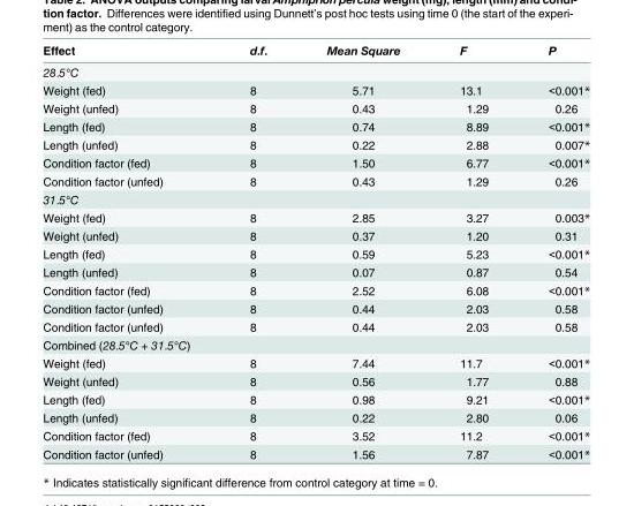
<table><thead><tr><td>Effect</td><td>d.f.</td><td>Mean Square</td><td>F</td><td>P</td></tr></thead><tbody><tr><td colspan="5">28.5°C</td></tr><tr><td>Weight (fed)</td><td>8</td><td>5.71</td><td>13.1</td><td>&lt;0.001*</td></tr><tr><td>Weight (unfed)</td><td>8</td><td>0.43</td><td>1.29</td><td>0.26</td></tr><tr><td>Length (fed)</td><td>8</td><td>0.74</td><td>8.89</td><td>&lt;0.001*</td></tr><tr><td>Length (unfed)</td><td>8</td><td>0.22</td><td>2.88</td><td>0.007*</td></tr><tr><td>Condition factor (fed)</td><td>8</td><td>1.50</td><td>6.77</td><td>&lt;0.001*</td></tr><tr><td>Condition factor (unfed)</td><td>8</td><td>0.43</td><td>1.29</td><td>0.26</td></tr><tr><td colspan="5">31.5°C</td></tr><tr><td>Weight (fed)</td><td>8</td><td>2.85</td><td>3.27</td><td>0.003*</td></tr><tr><td>Weight (unfed)</td><td>8</td><td>0.37</td><td>1.20</td><td>0.31</td></tr><tr><td>Length (fed)</td><td>8</td><td>0.59</td><td>5.23</td><td>&lt;0.001*</td></tr><tr><td>Length (unfed)</td><td>8</td><td>0.07</td><td>0.87</td><td>0.54</td></tr><tr><td>Condition factor (fed)</td><td>8</td><td>2.52</td><td>6.08</td><td>&lt;0.001*</td></tr><tr><td>Condition factor (unfed)</td><td>8</td><td>0.44</td><td>2.03</td><td>0.58</td></tr><tr><td>Condition factor (unfed)</td><td>8</td><td>0.44</td><td>2.03</td><td>0.58</td></tr><tr><td colspan="5">Combined (28.5°C + 31.5°C)</td></tr><tr><td>Weight (fed)</td><td>8</td><td>7.44</td><td>11.7</td><td>&lt;0.001*</td></tr><tr><td>Weight (unfed)</td><td>8</td><td>0.56</td><td>1.77</td><td>0.88</td></tr><tr><td>Length (fed)</td><td>8</td><td>0.98</td><td>9.21</td><td>&lt;0.001*</td></tr><tr><td>Length (unfed)</td><td>8</td><td>0.22</td><td>2.80</td><td>0.06</td></tr><tr><td>Condition factor (fed)</td><td>8</td><td>3.52</td><td>11.2</td><td>&lt;0.001*</td></tr><tr><td>Condition factor (unfed)</td><td>8</td><td>1.56</td><td>7.87</td><td>&lt;0.001*</td></tr></tbody></table>